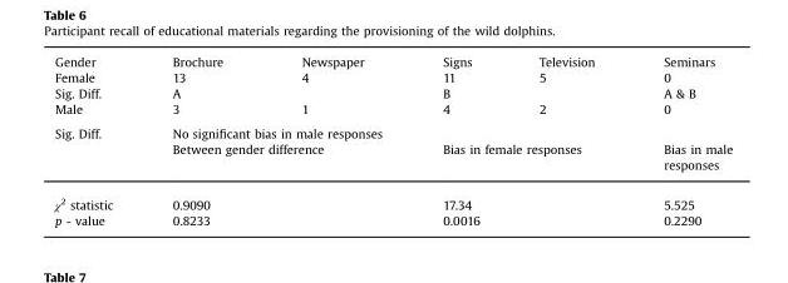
<table><tbody><tr><td>Gender</td><td>Brochure</td><td>Newspaper</td><td>Signs</td><td>Television</td><td>Seminars</td></tr><tr><td>Female</td><td>13</td><td>4</td><td>11</td><td>5</td><td>0</td></tr><tr><td>Sig. Diff.</td><td>A</td><td></td><td>B</td><td></td><td>A &amp; B</td></tr><tr><td>Male</td><td>3</td><td>1</td><td>4</td><td>2</td><td>0</td></tr><tr><td rowspan="2">Sig. Diff.</td><td colspan="5">No significant bias in male responses</td></tr><tr><td colspan="2">Between gender difference</td><td colspan="2">Bias in female responses</td><td>Bias in male responses</td></tr><tr><td>χ<sup>2</sup> statistic</td><td colspan="2">0.9090</td><td colspan="2">17.34</td><td>5.525</td></tr><tr><td>p - value</td><td colspan="2">0.8233</td><td colspan="2">0.0016</td><td>0.2290</td></tr></tbody></table>